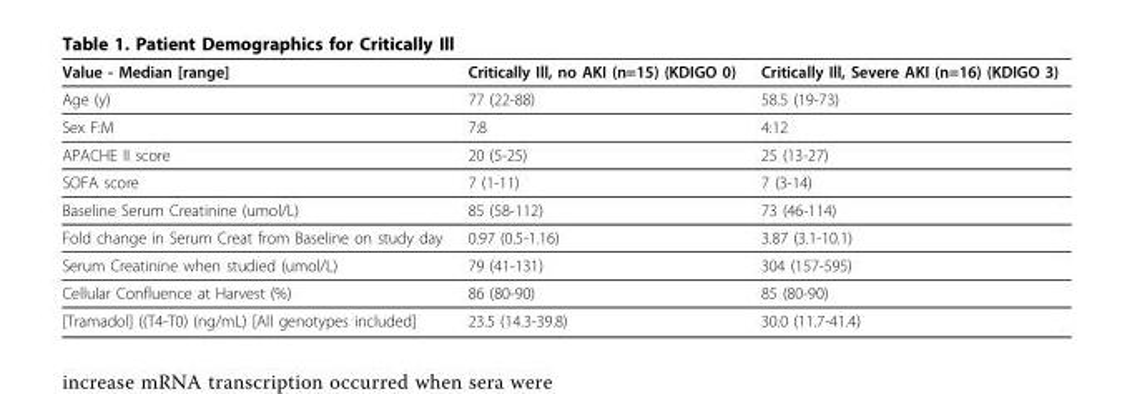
<table><thead><tr><td>Value - Median [range]</td><td>Critically Ill, no AKI (n=15) (KDIGO 0)</td><td>Critically Ill, Severe AKI (n=16) (KDIGO 3)</td></tr></thead><tbody><tr><td>Age (y)</td><td>77 (22-88)</td><td>58.5 (19-73)</td></tr><tr><td>Sex F:M</td><td>7:8</td><td>4:12</td></tr><tr><td>APACHE II score</td><td>20 (5-25)</td><td>25 (13-27)</td></tr><tr><td>SOFA score</td><td>7 (1-11)</td><td>7 (3-14)</td></tr><tr><td>Baseline Serum Creatinine (umol/L)</td><td>85 (58-112)</td><td>73 (46-114)</td></tr><tr><td>Fold change in Serum Creat from Baseline on study day</td><td>0.97 (0.5-1.16)</td><td>3.87 (3.1-10.1)</td></tr><tr><td>Serum Creatinine when studied (umol/L)</td><td>79 (41-131)</td><td>304 (157-595)</td></tr><tr><td>Cellular Confluence at Harvest (%)</td><td>86 (80-90)</td><td>85 (80-90)</td></tr><tr><td>[Tramadol] ((T4-T0) (ng/mL) [All genotypes included]</td><td>23.5 (14.3-39.8)</td><td>30.0 (11.7-41.4)</td></tr></tbody></table>